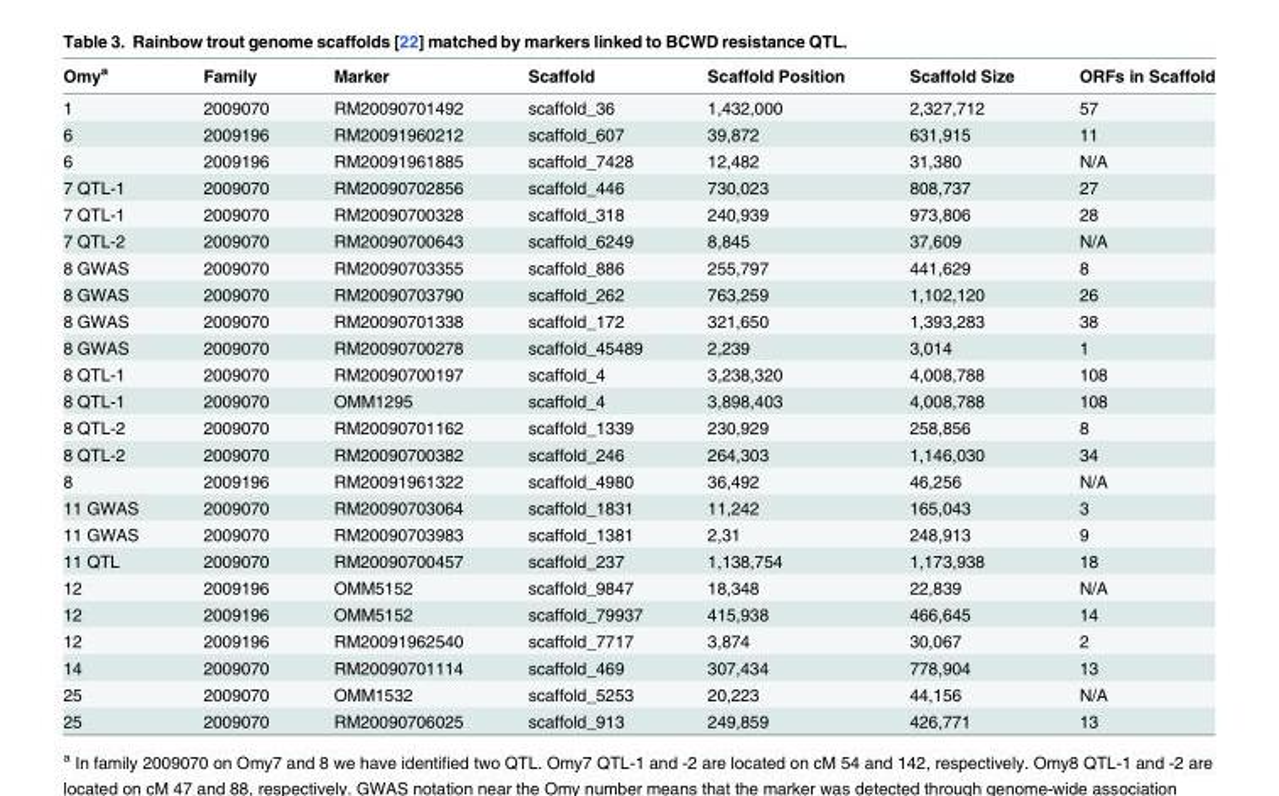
<table><thead><tr><td>Omy<sup>a</sup></td><td>Family</td><td>Marker</td><td>Scaffold</td><td>Scaffold Position</td><td>Scaffold Size</td><td>ORFs in Scaffold</td></tr></thead><tbody><tr><td>1</td><td>2009070</td><td>RM20090701492</td><td>scaffold_36</td><td>1,432,000</td><td>2,327,712</td><td>57</td></tr><tr><td>6</td><td>2009196</td><td>RM20091960212</td><td>scaffold_607</td><td>39,872</td><td>631,915</td><td>11</td></tr><tr><td>6</td><td>2009196</td><td>RM20091961885</td><td>scaffold_7428</td><td>12,482</td><td>31,380</td><td>N/A</td></tr><tr><td>7 QTL-1</td><td>2009070</td><td>RM20090702856</td><td>scaffold_446</td><td>730,023</td><td>808,737</td><td>27</td></tr><tr><td>7 QTL-1</td><td>2009070</td><td>RM20090700328</td><td>scaffold_318</td><td>240,939</td><td>973,806</td><td>28</td></tr><tr><td>7 QTL-2</td><td>2009070</td><td>RM20090700643</td><td>scaffold_6249</td><td>8,845</td><td>37,609</td><td>N/A</td></tr><tr><td>8 GWAS</td><td>2009070</td><td>RM20090703355</td><td>scaffold_886</td><td>255,797</td><td>441,629</td><td>8</td></tr><tr><td>8 GWAS</td><td>2009070</td><td>RM20090703790</td><td>scaffold_262</td><td>763,259</td><td>1,102,120</td><td>26</td></tr><tr><td>8 GWAS</td><td>2009070</td><td>RM20090701338</td><td>scaffold_172</td><td>321,650</td><td>1,393,283</td><td>38</td></tr><tr><td>8 GWAS</td><td>2009070</td><td>RM20090700278</td><td>scaffold_45489</td><td>2,239</td><td>3,014</td><td>1</td></tr><tr><td>8 QTL-1</td><td>2009070</td><td>RM20090700197</td><td>scaffold_4</td><td>3,238,320</td><td>4,008,788</td><td>108</td></tr><tr><td>8 QTL-1</td><td>2009070</td><td>OMM1295</td><td>scaffold_4</td><td>3,898,403</td><td>4,008,788</td><td>108</td></tr><tr><td>8 QTL-2</td><td>2009070</td><td>RM20090701162</td><td>scaffold_1339</td><td>230,929</td><td>258,856</td><td>8</td></tr><tr><td>8 QTL-2</td><td>2009070</td><td>RM20090700382</td><td>scaffold_246</td><td>264,303</td><td>1,146,030</td><td>34</td></tr><tr><td>8</td><td>2009196</td><td>RM20091961322</td><td>scaffold_4980</td><td>36,492</td><td>46,256</td><td>N/A</td></tr><tr><td>11 GWAS</td><td>2009070</td><td>RM20090703064</td><td>scaffold_1831</td><td>11,242</td><td>165,043</td><td>3</td></tr><tr><td>11 GWAS</td><td>2009070</td><td>RM20090703983</td><td>scaffold_1381</td><td>2,31</td><td>248,913</td><td>9</td></tr><tr><td>11 QTL</td><td>2009070</td><td>RM20090700457</td><td>scaffold_237</td><td>1,138,754</td><td>1,173,938</td><td>18</td></tr><tr><td>12</td><td>2009196</td><td>OMM5152</td><td>scaffold_9847</td><td>18,348</td><td>22,839</td><td>N/A</td></tr><tr><td>12</td><td>2009196</td><td>OMM5152</td><td>scaffold_79937</td><td>415,938</td><td>466,645</td><td>14</td></tr><tr><td>12</td><td>2009196</td><td>RM20091962540</td><td>scaffold_7717</td><td>3,874</td><td>30,067</td><td>2</td></tr><tr><td>14</td><td>2009070</td><td>RM20090701114</td><td>scaffold_469</td><td>307,434</td><td>778,904</td><td>13</td></tr><tr><td>25</td><td>2009070</td><td>OMM1532</td><td>scaffold_5253</td><td>20,223</td><td>44,156</td><td>N/A</td></tr><tr><td>25</td><td>2009070</td><td>RM20090706025</td><td>scaffold_913</td><td>249,859</td><td>426,771</td><td>13</td></tr></tbody></table>